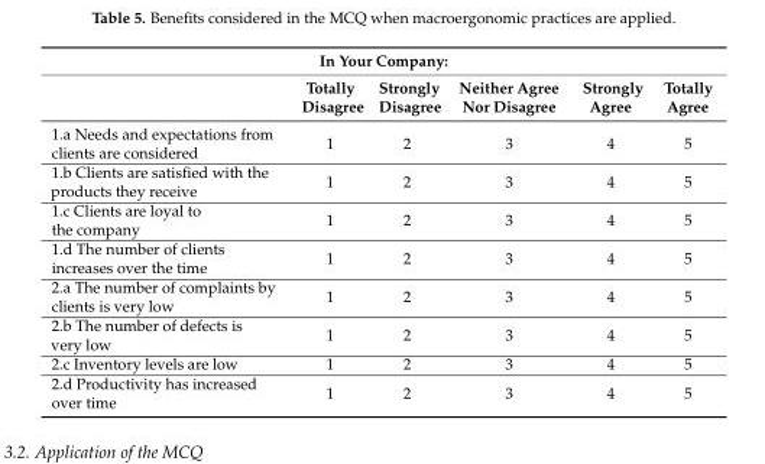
<table><thead><tr><td colspan="6">In Your Company:</td></tr><tr><td></td><td>Totally Disagree</td><td>Strongly Disagree</td><td>Neither Agree Nor Disagree</td><td>Strongly Agree</td><td>Totally Agree</td></tr></thead><tbody><tr><td>1.a Needs and expectations from clients are considered</td><td>1</td><td>2</td><td>3</td><td>4</td><td>5</td></tr><tr><td>1.b Clients are satisfied with the products they receive</td><td>1</td><td>2</td><td>3</td><td>4</td><td>5</td></tr><tr><td>1.c Clients are loyal to the company</td><td>1</td><td>2</td><td>3</td><td>4</td><td>5</td></tr><tr><td>1.d The number of clients increases over the time</td><td>1</td><td>2</td><td>3</td><td>4</td><td>5</td></tr><tr><td>2.a The number of complaints by clients is very low</td><td>1</td><td>2</td><td>3</td><td>4</td><td>5</td></tr><tr><td>2.b The number of defects is very low</td><td>1</td><td>2</td><td>3</td><td>4</td><td>5</td></tr><tr><td>2.c Inventory levels are low</td><td>1</td><td>2</td><td>3</td><td>4</td><td>5</td></tr><tr><td>2.d Productivity has increased over time</td><td>1</td><td>2</td><td>3</td><td>4</td><td>5</td></tr></tbody></table>